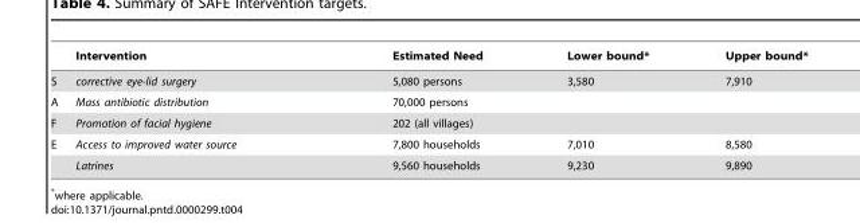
<table><thead><tr><td></td><td>Intervention</td><td>Estimated Need</td><td>Lower bound*</td><td>Upper bound*</td></tr></thead><tbody><tr><td>S</td><td>corrective eye-lid surgery</td><td>5,080 persons</td><td>3,580</td><td>7,910</td></tr><tr><td>A</td><td>Mass antibiotic distribution</td><td>70,000 persons</td><td></td><td></td></tr><tr><td>F</td><td>Promotion of facial hygiene</td><td>202 (all villages)</td><td></td><td></td></tr><tr><td rowspan="2">E</td><td>Access to improved water source</td><td>7,800 households</td><td>7,010</td><td>8,580</td></tr><tr><td>Latrines</td><td>9,560 households</td><td>9,230</td><td>9,890</td></tr></tbody></table>